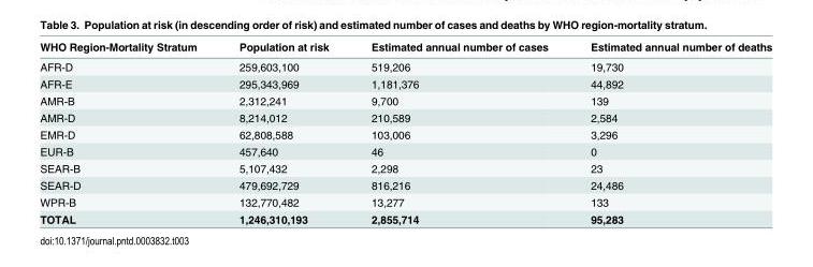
<table><thead><tr><td>WHO Region-Mortality Stratum</td><td>Population at risk</td><td>Estimated annual number of cases</td><td>Estimated annual number of deaths</td></tr></thead><tbody><tr><td>AFR-D</td><td>259,603,100</td><td>519,206</td><td>19,730</td></tr><tr><td>AFR-E</td><td>295,343,969</td><td>1,181,376</td><td>44,892</td></tr><tr><td>AMR-B</td><td>2,312,241</td><td>9,700</td><td>139</td></tr><tr><td>AMR-D</td><td>8,214,012</td><td>210,589</td><td>2,584</td></tr><tr><td>EMR-D</td><td>62,808,588</td><td>103,006</td><td>3,296</td></tr><tr><td>EUR-B</td><td>457,640</td><td>46</td><td>0</td></tr><tr><td>SEAR-B</td><td>5,107,432</td><td>2,298</td><td>23</td></tr><tr><td>SEAR-D</td><td>479,692,729</td><td>816,216</td><td>24,486</td></tr><tr><td>WPR-B</td><td>132,770,482</td><td>13,277</td><td>133</td></tr><tr><td>TOTAL</td><td>1,246,310,193</td><td>2,855,714</td><td>95,283</td></tr></tbody></table>